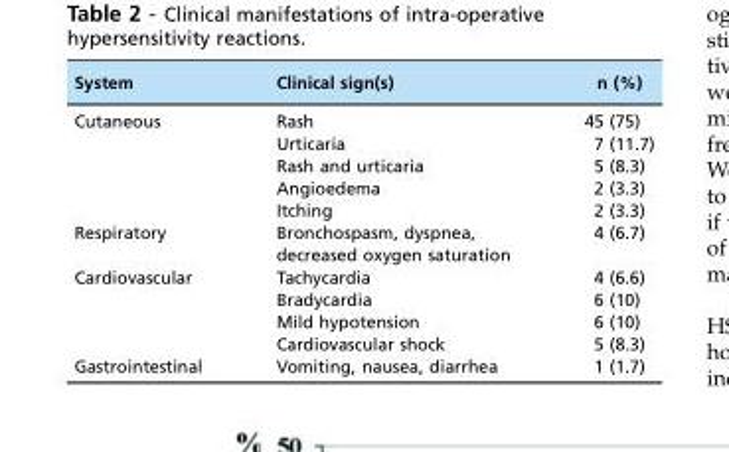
<table><thead><tr><td>System</td><td>Clinical sign(s)</td><td>n (%)</td></tr></thead><tbody><tr><td rowspan="5">Cutaneous</td><td>Rash</td><td>45 (75)</td></tr><tr><td>Urticaria</td><td>7 (11.7)</td></tr><tr><td>Rash and urticaria</td><td>5 (8.3)</td></tr><tr><td>Angioedema</td><td>2 (3.3)</td></tr><tr><td>Itching</td><td>2 (3.3)</td></tr><tr><td>Respiratory</td><td>Bronchospasm, dyspnea, decreased oxygen saturation</td><td>4 (6.7)</td></tr><tr><td rowspan="4">Cardiovascular</td><td>Tachycardia</td><td>4 (6.6)</td></tr><tr><td>Bradycardia</td><td>6 (10)</td></tr><tr><td>Mild hypotension</td><td>6 (10)</td></tr><tr><td>Cardiovascular shock</td><td>5 (8.3)</td></tr><tr><td>Gastrointestinal</td><td>Vomiting, nausea, diarrhea</td><td>1 (1.7)</td></tr></tbody></table>